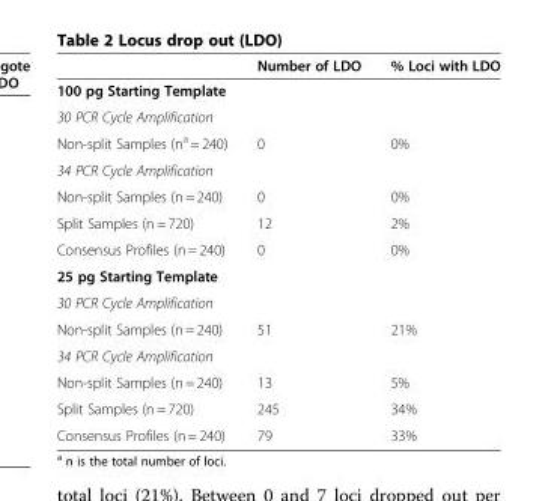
<table><thead><tr><td></td><td>Number of LDO</td><td>% Loci with LDO</td></tr></thead><tbody><tr><td colspan="3">100 pg Starting Template</td></tr><tr><td colspan="3">30 PCR Cycle Amplification</td></tr><tr><td>Non-split Samples (n<sup>a</sup> = 240)</td><td>0</td><td>0%</td></tr><tr><td colspan="3">34 PCR Cycle Amplification</td></tr><tr><td>Non-split Samples (n = 240)</td><td>0</td><td>0%</td></tr><tr><td>Split Samples (n = 720)</td><td>12</td><td>2%</td></tr><tr><td>Consensus Profiles (n = 240)</td><td>0</td><td>0%</td></tr><tr><td colspan="3">25 pg Starting Template</td></tr><tr><td colspan="3">30 PCR Cycle Amplification</td></tr><tr><td>Non-split Samples (n = 240)</td><td>51</td><td>21%</td></tr><tr><td colspan="3">34 PCR Cycle Amplification</td></tr><tr><td>Non-split Samples (n = 240)</td><td>13</td><td>5%</td></tr><tr><td>Split Samples (n = 720)</td><td>245</td><td>34%</td></tr><tr><td>Consensus Profiles (n = 240)</td><td>79</td><td>33%</td></tr></tbody></table>